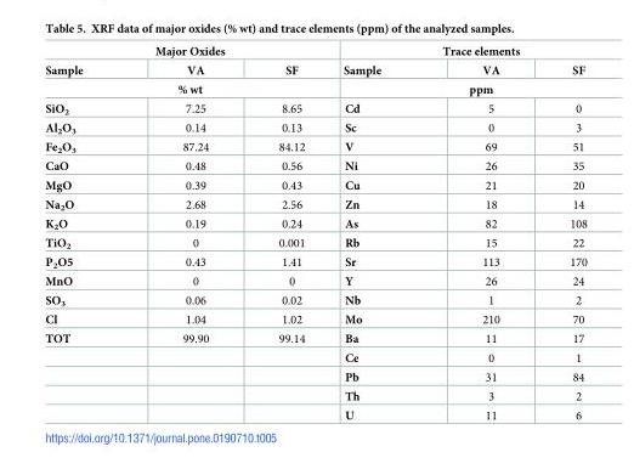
<table><thead><tr><td colspan="3">Major Oxides</td><td colspan="3">Trace elements</td></tr><tr><td>Sample</td><td>VA</td><td>SF</td><td>Sample</td><td>VA</td><td>SF</td></tr><tr><td colspan="3">% wt</td><td colspan="3">ppm</td></tr></thead><tbody><tr><td>SiO<sub>2</sub></td><td>7.25</td><td>8.65</td><td>Cd</td><td>5</td><td>0</td></tr><tr><td>Al<sub>2</sub>O<sub>3</sub></td><td>0.14</td><td>0.13</td><td>Sc</td><td>0</td><td>3</td></tr><tr><td>Fe<sub>2</sub>O<sub>3</sub></td><td>87.24</td><td>84.12</td><td>V</td><td>69</td><td>51</td></tr><tr><td>CaO</td><td>0.48</td><td>0.56</td><td>Ni</td><td>26</td><td>35</td></tr><tr><td>MgO</td><td>0.39</td><td>0.43</td><td>Cu</td><td>21</td><td>20</td></tr><tr><td>Na<sub>2</sub>O</td><td>2.68</td><td>2.56</td><td>Zn</td><td>18</td><td>14</td></tr><tr><td>K<sub>2</sub>O</td><td>0.19</td><td>0.24</td><td>As</td><td>82</td><td>108</td></tr><tr><td>TiO<sub>2</sub></td><td>0</td><td>0.001</td><td>Rb</td><td>15</td><td>22</td></tr><tr><td>P<sub>2</sub>O5</td><td>0.43</td><td>1.41</td><td>Sr</td><td>113</td><td>170</td></tr><tr><td>MnO</td><td>0</td><td>0</td><td>Y</td><td>26</td><td>24</td></tr><tr><td>SO<sub>3</sub></td><td>0.06</td><td>0.02</td><td>Nb</td><td>1</td><td>2</td></tr><tr><td>Cl</td><td>1.04</td><td>1.02</td><td>Mo</td><td>210</td><td>70</td></tr><tr><td rowspan="5">TOT</td><td>99.90</td><td>99.14</td><td>Ba</td><td>11</td><td>17</td></tr><tr><td></td><td></td><td>Ce</td><td>0</td><td>1</td></tr><tr><td></td><td></td><td>Pb</td><td>31</td><td>84</td></tr><tr><td></td><td></td><td>Th</td><td>3</td><td>2</td></tr><tr><td></td><td></td><td>U</td><td>11</td><td>6</td></tr></tbody></table>